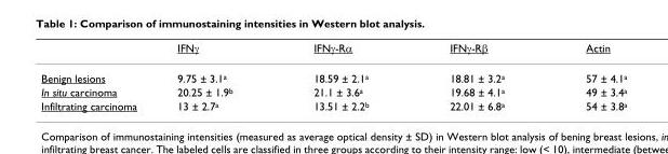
<table><thead><tr><td></td><td>IFNγ</td><td>IFNγ-Rα</td><td>IFNγ-Rβ</td><td>Actin</td></tr></thead><tbody><tr><td>Benign lesions</td><td>9.75 ± 3.1<sup>a</sup></td><td>18.59 ± 2.1<sup>a</sup></td><td>18.81 ± 3.2<sup>a</sup></td><td>57 ± 4.1<sup>a</sup></td></tr><tr><td>In situ carcinoma</td><td>20.25 ± 1.9<sup>b</sup></td><td>21.1 ± 3.6<sup>a</sup></td><td>19.68 ± 4.1<sup>a</sup></td><td>49 ± 3.4<sup>a</sup></td></tr><tr><td>Infiltrating carcinoma</td><td>13 ± 2.7<sup>a</sup></td><td>13.51 ± 2.2<sup>b</sup></td><td>22.01 ± 6.8<sup>a</sup></td><td>54 ± 3.8<sup>a</sup></td></tr></tbody></table>